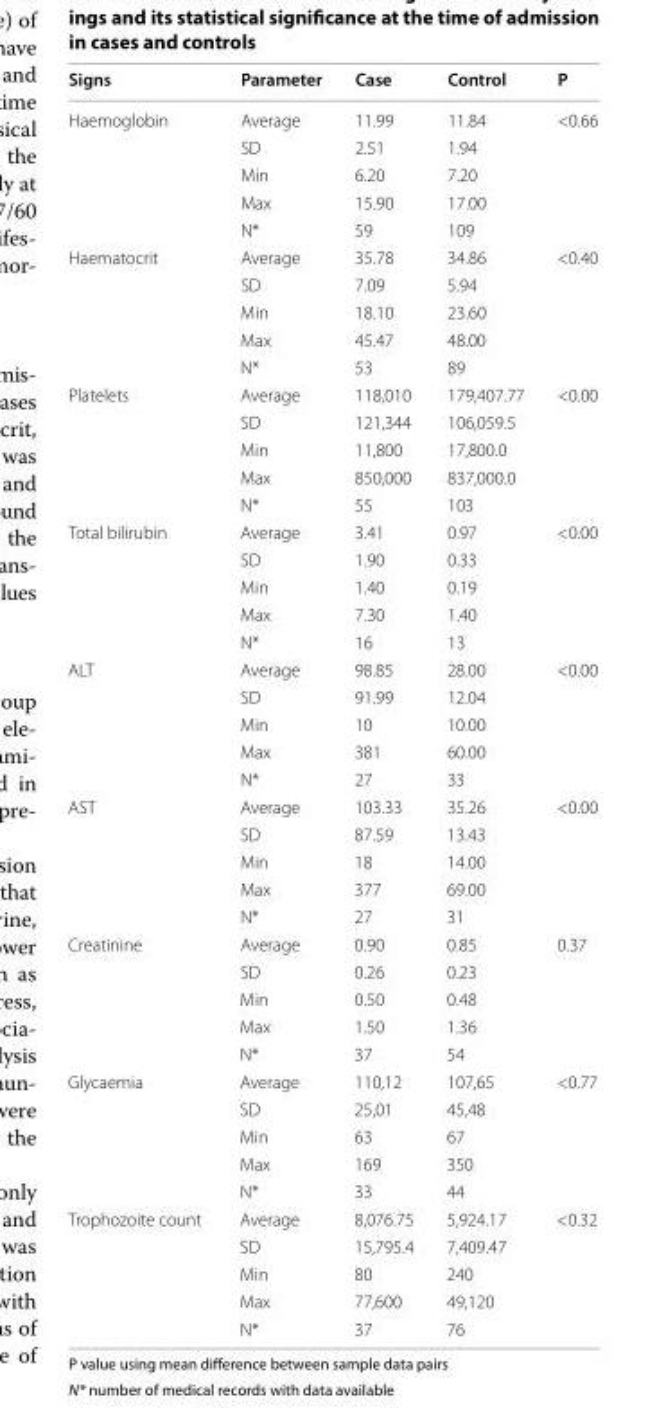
<table><thead><tr><td>Signs</td><td>Parameter</td><td>Case</td><td>Control</td><td>P</td></tr></thead><tbody><tr><td rowspan="5">Haemoglobin</td><td>Average</td><td>11.99</td><td>11.84</td><td rowspan="5">&lt;0.66</td></tr><tr><td>SD</td><td>2.51</td><td>1.94</td></tr><tr><td>Min</td><td>6.20</td><td>7.20</td></tr><tr><td>Max</td><td>15.90</td><td>17.00</td></tr><tr><td>N*</td><td>59</td><td>109</td></tr><tr><td rowspan="5">Haematocrit</td><td>Average</td><td>35.78</td><td>34.86</td><td rowspan="5">&lt;0.40</td></tr><tr><td>SD</td><td>7.09</td><td>5.94</td></tr><tr><td>Min</td><td>18.10</td><td>23.60</td></tr><tr><td>Max</td><td>45.47</td><td>48.00</td></tr><tr><td>N*</td><td>53</td><td>89</td></tr><tr><td rowspan="5">Platelets</td><td>Average</td><td>118,010</td><td>179,407.77</td><td rowspan="5">&lt;0.00</td></tr><tr><td>SD</td><td>121,344</td><td>106,059.5</td></tr><tr><td>Min</td><td>11,800</td><td>17,800.0</td></tr><tr><td>Max</td><td>850,000</td><td>837,000.0</td></tr><tr><td>N*</td><td>55</td><td>103</td></tr><tr><td rowspan="5">Total bilirubin</td><td>Average</td><td>3.41</td><td>0.97</td><td rowspan="5">&lt;0.00</td></tr><tr><td>SD</td><td>1.90</td><td>0.33</td></tr><tr><td>Min</td><td>1.40</td><td>0.19</td></tr><tr><td>Max</td><td>7.30</td><td>1.40</td></tr><tr><td>N*</td><td>16</td><td>13</td></tr><tr><td rowspan="5">ALT</td><td>Average</td><td>98.85</td><td>28.00</td><td rowspan="5">&lt;0.00</td></tr><tr><td>SD</td><td>91.99</td><td>12.04</td></tr><tr><td>Min</td><td>10</td><td>10.00</td></tr><tr><td>Max</td><td>381</td><td>60.00</td></tr><tr><td>N*</td><td>27</td><td>33</td></tr><tr><td rowspan="5">AST</td><td>Average</td><td>103.33</td><td>35.26</td><td rowspan="5">&lt;0.00</td></tr><tr><td>SD</td><td>87.59</td><td>13.43</td></tr><tr><td>Min</td><td>18</td><td>14.00</td></tr><tr><td>Max</td><td>377</td><td>69.00</td></tr><tr><td>N*</td><td>27</td><td>31</td></tr><tr><td rowspan="5">Creatinine</td><td>Average</td><td>0.90</td><td>0.85</td><td rowspan="5">0.37</td></tr><tr><td>SD</td><td>0.26</td><td>0.23</td></tr><tr><td>Min</td><td>0.50</td><td>0.48</td></tr><tr><td>Max</td><td>1.50</td><td>1.36</td></tr><tr><td>N*</td><td>37</td><td>54</td></tr><tr><td rowspan="5">Glycaemia</td><td>Average</td><td>110,12</td><td>107,65</td><td rowspan="5">&lt;0.77</td></tr><tr><td>SD</td><td>25,01</td><td>45,48</td></tr><tr><td>Min</td><td>63</td><td>67</td></tr><tr><td>Max</td><td>169</td><td>350</td></tr><tr><td>N*</td><td>33</td><td>44</td></tr><tr><td rowspan="5">Trophozoite count</td><td>Average</td><td>8,076.75</td><td>5,924.17</td><td rowspan="5">&lt;0.32</td></tr><tr><td>SD</td><td>15,795.4</td><td>7,409.47</td></tr><tr><td>Min</td><td>80</td><td>240</td></tr><tr><td>Max</td><td>77,600</td><td>49,120</td></tr><tr><td>N*</td><td>37</td><td>76</td></tr></tbody></table>